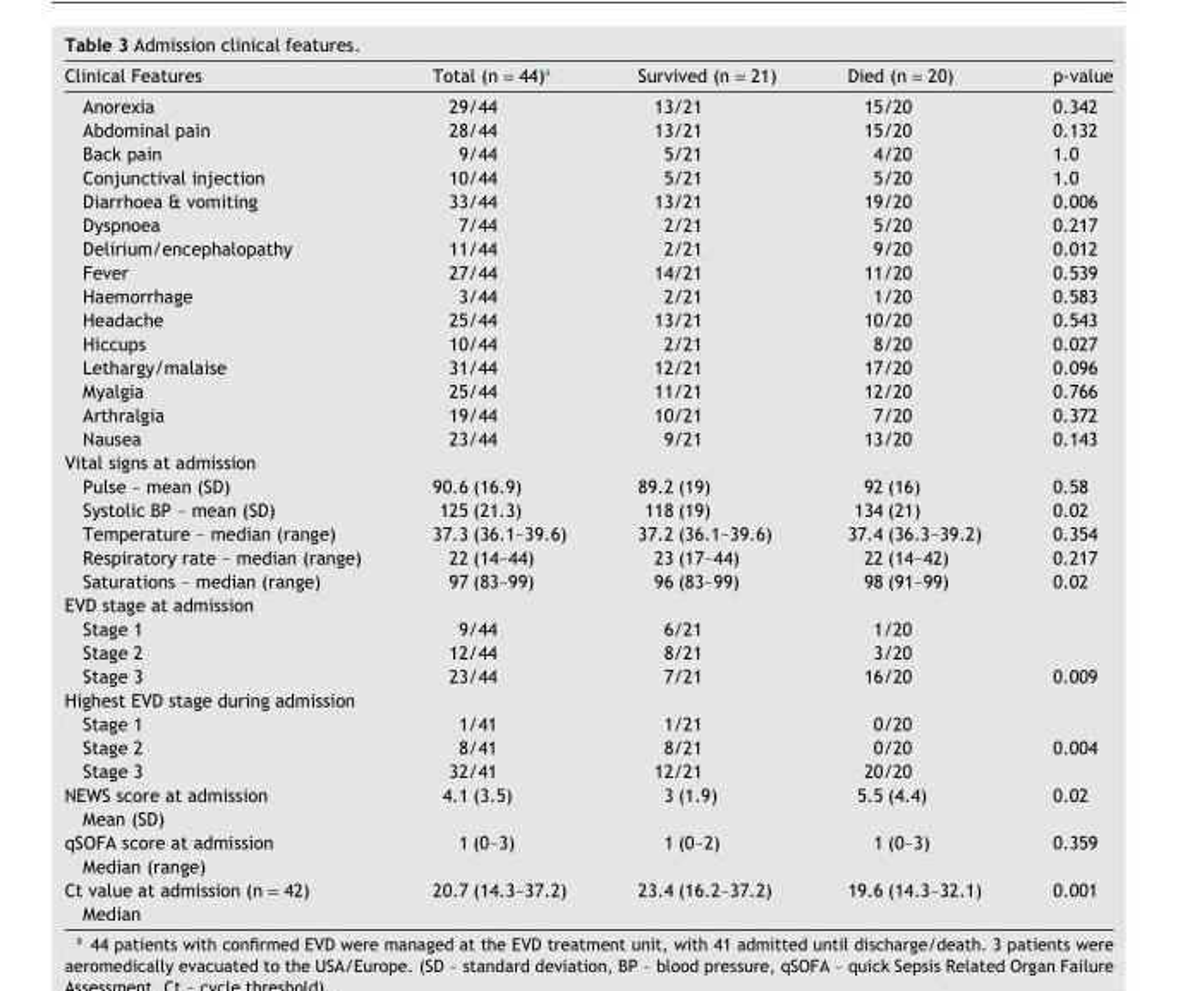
<table><thead><tr><td>Clinical Features</td><td>Total (n = 44)<sup>a</sup></td><td>Survived (n = 21)</td><td>Died (n = 20)</td><td>p-value</td></tr></thead><tbody><tr><td>Anorexia</td><td>29/44</td><td>13/21</td><td>15/20</td><td>0.342</td></tr><tr><td>Abdominal pain</td><td>28/44</td><td>13/21</td><td>15/20</td><td>0.132</td></tr><tr><td>Back pain</td><td>9/44</td><td>5/21</td><td>4/20</td><td>1.0</td></tr><tr><td>Conjunctival injection</td><td>10/44</td><td>5/21</td><td>5/20</td><td>1.0</td></tr><tr><td>Diarrhoea &amp; vomiting</td><td>33/44</td><td>13/21</td><td>19/20</td><td>0.006</td></tr><tr><td>Dyspnoea</td><td>7/44</td><td>2/21</td><td>5/20</td><td>0.217</td></tr><tr><td>Delirium/encephalopathy</td><td>11/44</td><td>2/21</td><td>9/20</td><td>0.012</td></tr><tr><td>Fever</td><td>27/44</td><td>14/21</td><td>11/20</td><td>0.539</td></tr><tr><td>Haemorrhage</td><td>3/44</td><td>2/21</td><td>1/20</td><td>0.583</td></tr><tr><td>Headache</td><td>25/44</td><td>13/21</td><td>10/20</td><td>0.543</td></tr><tr><td>Hiccups</td><td>10/44</td><td>2/21</td><td>8/20</td><td>0.027</td></tr><tr><td>Lethargy/malaise</td><td>31/44</td><td>12/21</td><td>17/20</td><td>0.096</td></tr><tr><td>Myalgia</td><td>25/44</td><td>11/21</td><td>12/20</td><td>0.766</td></tr><tr><td>Arthralgia</td><td>19/44</td><td>10/21</td><td>7/20</td><td>0.372</td></tr><tr><td>Nausea</td><td>23/44</td><td>9/21</td><td>13/20</td><td>0.143</td></tr><tr><td colspan="5">Vital signs at admission</td></tr><tr><td>Pulse – mean (SD)</td><td>90.6 (16.9)</td><td>89.2 (19)</td><td>92 (16)</td><td>0.58</td></tr><tr><td>Systolic BP – mean (SD)</td><td>125 (21.3)</td><td>118 (19)</td><td>134 (21)</td><td>0.02</td></tr><tr><td>Temperature – median (range)</td><td>37.3 (36.1–39.6)</td><td>37.2 (36.1–39.6)</td><td>37.4 (36.3–39.2)</td><td>0.354</td></tr><tr><td>Respiratory rate – median (range)</td><td>22 (14–44)</td><td>23 (17–44)</td><td>22 (14–42)</td><td>0.217</td></tr><tr><td>Saturations – median (range)</td><td>97 (83–99)</td><td>96 (83–99)</td><td>98 (91–99)</td><td>0.02</td></tr><tr><td colspan="5">EVD stage at admission</td></tr><tr><td>Stage 1</td><td>9/44</td><td>6/21</td><td>1/20</td><td></td></tr><tr><td>Stage 2</td><td>12/44</td><td>8/21</td><td>3/20</td><td></td></tr><tr><td>Stage 3</td><td>23/44</td><td>7/21</td><td>16/20</td><td>0.009</td></tr><tr><td colspan="5">Highest EVD stage during admission</td></tr><tr><td>Stage 1</td><td>1/41</td><td>1/21</td><td>0/20</td><td></td></tr><tr><td>Stage 2</td><td>8/41</td><td>8/21</td><td>0/20</td><td>0.004</td></tr><tr><td>Stage 3</td><td>32/41</td><td>12/21</td><td>20/20</td><td></td></tr><tr><td>NEWS score at admission Mean (SD)</td><td>4.1 (3.5)</td><td>3 (1.9)</td><td>5.5 (4.4)</td><td>0.02</td></tr><tr><td>qSOFA score at admission Median (range)</td><td>1 (0–3)</td><td>1 (0–2)</td><td>1 (0–3)</td><td>0.359</td></tr><tr><td>Ct value at admission (n = 42) Median</td><td>20.7 (14.3–37.2)</td><td>23.4 (16.2–37.2)</td><td>19.6 (14.3–32.1)</td><td>0.001</td></tr></tbody></table>